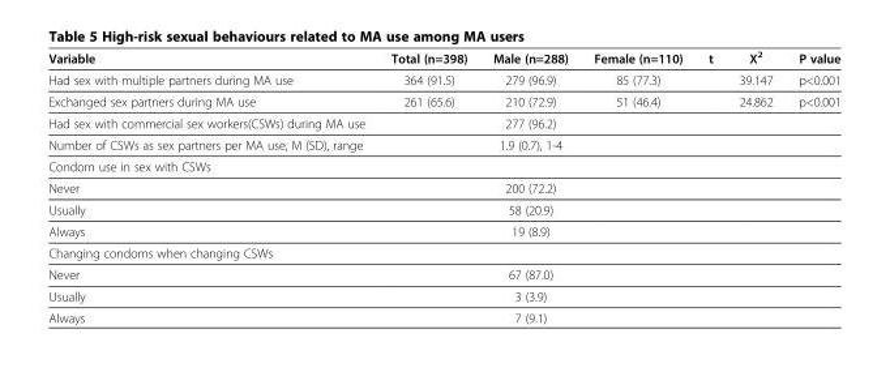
<table><thead><tr><td>Variable</td><td>Total (n=398)</td><td>Male (n=288)</td><td>Female (n=110)</td><td>t</td><td>X<sup>2</sup></td><td>P value</td></tr></thead><tbody><tr><td>Had sex with multiple partners during MA use</td><td>364 (91.5)</td><td>279 (96.9)</td><td>85 (77.3)</td><td></td><td>39.147</td><td>p&lt;0.001</td></tr><tr><td>Exchanged sex partners during MA use</td><td>261 (65.6)</td><td>210 (72.9)</td><td>51 (46.4)</td><td></td><td>24.862</td><td>p&lt;0.001</td></tr><tr><td>Had sex with commercial sex workers(CSWs) during MA use</td><td></td><td>277 (96.2)</td><td></td><td></td><td></td><td></td></tr><tr><td>Number of CSWs as sex partners per MA use, M (SD), range</td><td></td><td>1.9 (0.7), 1-4</td><td></td><td></td><td></td><td></td></tr><tr><td colspan="7">Condom use in sex with CSWs</td></tr><tr><td>Never</td><td></td><td>200 (72.2)</td><td></td><td></td><td></td><td></td></tr><tr><td>Usually</td><td></td><td>58 (20.9)</td><td></td><td></td><td></td><td></td></tr><tr><td>Always</td><td></td><td>19 (8.9)</td><td></td><td></td><td></td><td></td></tr><tr><td colspan="7">Changing condoms when changing CSWs</td></tr><tr><td>Never</td><td></td><td>67 (87.0)</td><td></td><td></td><td></td><td></td></tr><tr><td>Usually</td><td></td><td>3 (3.9)</td><td></td><td></td><td></td><td></td></tr><tr><td>Always</td><td></td><td>7 (9.1)</td><td></td><td></td><td></td><td></td></tr></tbody></table>